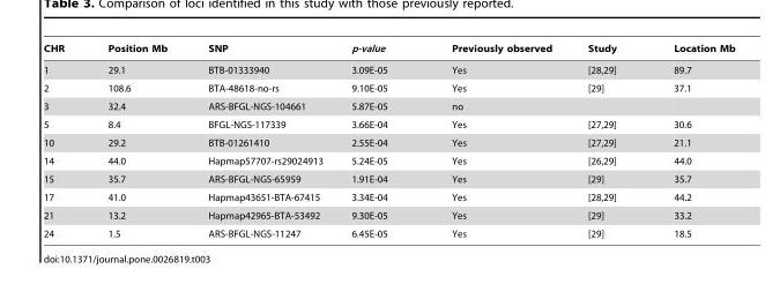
<table><thead><tr><td>CHR</td><td>Position Mb</td><td>SNP</td><td>p-value</td><td>Previously observed</td><td>Study</td><td>Location Mb</td></tr></thead><tbody><tr><td>1</td><td>29.1</td><td>BTB-01333940</td><td>3.09E-05</td><td>Yes</td><td>[28,29]</td><td>89.7</td></tr><tr><td>2</td><td>108.6</td><td>BTA-48618-no-rs</td><td>9.10E-05</td><td>Yes</td><td>[29]</td><td>37.1</td></tr><tr><td>3</td><td>32.4</td><td>ARS-BFGL-NGS-104661</td><td>5.87E-05</td><td>no</td><td></td><td></td></tr><tr><td>5</td><td>8.4</td><td>BFGL-NGS-117339</td><td>3.66E-04</td><td>Yes</td><td>[27,29]</td><td>30.6</td></tr><tr><td>10</td><td>29.2</td><td>BTB-01261410</td><td>2.55E-04</td><td>Yes</td><td>[27,29]</td><td>21.1</td></tr><tr><td>14</td><td>44.0</td><td>Hapmap57707-rs29024913</td><td>5.24E-05</td><td>Yes</td><td>[26,29]</td><td>44.0</td></tr><tr><td>15</td><td>35.7</td><td>ARS-BFGL-NGS-65959</td><td>1.91E-04</td><td>Yes</td><td>[29]</td><td>35.7</td></tr><tr><td>17</td><td>41.0</td><td>Hapmap43651-BTA-67415</td><td>3.34E-04</td><td>Yes</td><td>[28,29]</td><td>44.2</td></tr><tr><td>21</td><td>13.2</td><td>Hapmap42965-BTA-53492</td><td>9.30E-05</td><td>Yes</td><td>[29]</td><td>33.2</td></tr><tr><td>24</td><td>1.5</td><td>ARS-BFGL-NGS-11247</td><td>6.45E-05</td><td>Yes</td><td>[29]</td><td>18.5</td></tr></tbody></table>